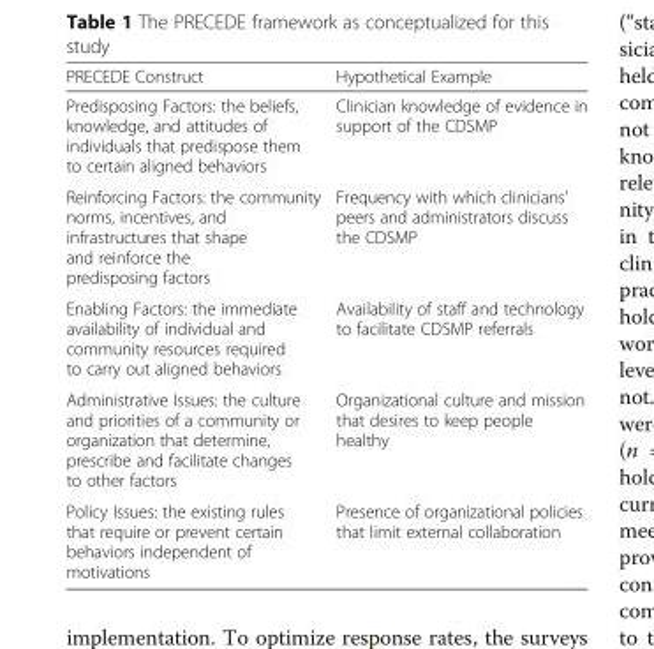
<table><thead><tr><td>PRECEDE Construct</td><td>Hypothetical Example</td></tr></thead><tbody><tr><td>Predisposing Factors: the beliefs, knowledge, and attitudes of individuals that predispose them to certain aligned behaviors</td><td>Clinician knowledge of evidence in support of the CDSMP</td></tr><tr><td>Reinforcing Factors: the community norms, incentives, and infrastructures that shape and reinforce the predisposing factors</td><td>Frequency with which clinicians’ peers and administrators discuss the CDSMP</td></tr><tr><td>Enabling Factors: the immediate availability of individual and community resources required to carry out aligned behaviors</td><td>Availability of staff and technology to facilitate CDSMP referrals</td></tr><tr><td>Administrative Issues: the culture and priorities of a community or organization that determine, prescribe and facilitate changes to other factors</td><td>Organizational culture and mission that desires to keep people healthy</td></tr><tr><td>Policy Issues: the existing rules that require or prevent certain behaviors independent of motivations</td><td>Presence of organizational policies that limit external collaboration</td></tr></tbody></table>